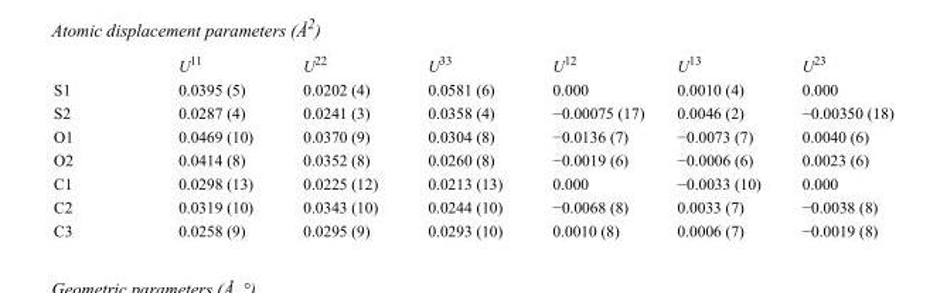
<table><thead><tr><td></td><td>U<sup>11</sup></td><td>U<sup>22</sup></td><td>U<sup>33</sup></td><td>U<sup>12</sup></td><td>U<sup>13</sup></td><td>U<sup>23</sup></td></tr></thead><tbody><tr><td>S1</td><td>0.0395 (5)</td><td>0.0202 (4)</td><td>0.0581 (6)</td><td>0.000</td><td>0.0010 (4)</td><td>0.000</td></tr><tr><td>S2</td><td>0.0287 (4)</td><td>0.0241 (3)</td><td>0.0358 (4)</td><td>−0.00075 (17)</td><td>0.0046 (2)</td><td>−0.00350 (18)</td></tr><tr><td>O1</td><td>0.0469 (10)</td><td>0.0370 (9)</td><td>0.0304 (8)</td><td>−0.0136 (7)</td><td>−0.0073 (7)</td><td>0.0040 (6)</td></tr><tr><td>O2</td><td>0.0414 (8)</td><td>0.0352 (8)</td><td>0.0260 (8)</td><td>−0.0019 (6)</td><td>−0.0006 (6)</td><td>0.0023 (6)</td></tr><tr><td>C1</td><td>0.0298 (13)</td><td>0.0225 (12)</td><td>0.0213 (13)</td><td>0.000</td><td>−0.0033 (10)</td><td>0.000</td></tr><tr><td>C2</td><td>0.0319 (10)</td><td>0.0343 (10)</td><td>0.0244 (10)</td><td>−0.0068 (8)</td><td>0.0033 (7)</td><td>−0.0038 (8)</td></tr><tr><td>C3</td><td>0.0258 (9)</td><td>0.0295 (9)</td><td>0.0293 (10)</td><td>0.0010 (8)</td><td>0.0006 (7)</td><td>−0.0019 (8)</td></tr></tbody></table>